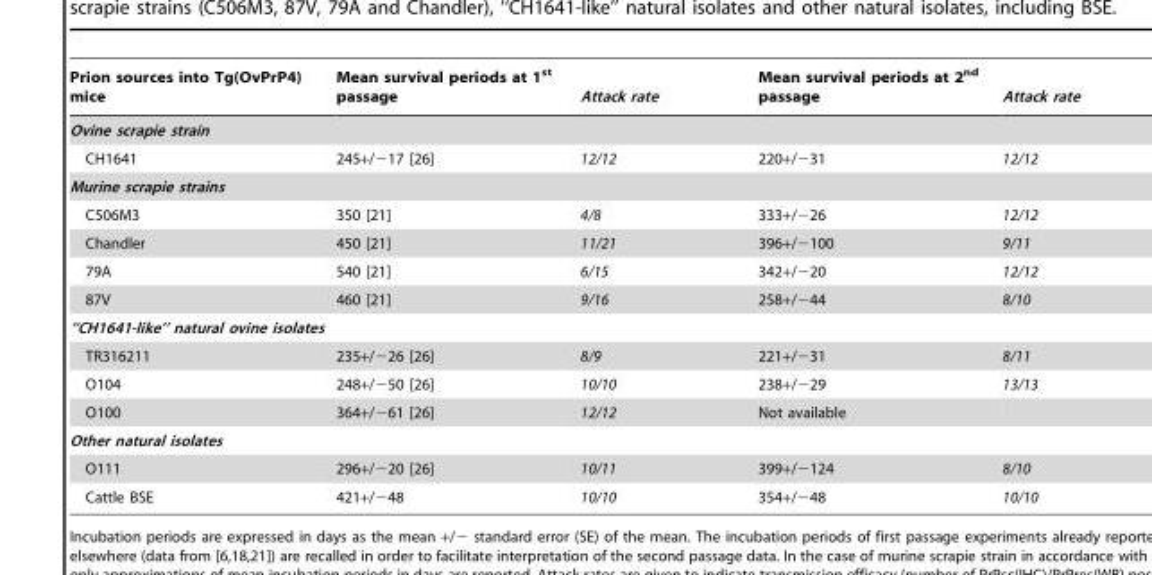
<table><thead><tr><td>Prion sources into Tg(OvPrP4) mice</td><td>Mean survival periods at 1<sup>st</sup> passage</td><td>Attack rate</td><td>Mean survival periods at 2<sup>nd</sup> passage</td><td>Attack rate</td></tr></thead><tbody><tr><td colspan="5">Ovine scrapie strain</td></tr><tr><td>CH1641</td><td>245+/−17 [26]</td><td>12/12</td><td>220+/−31</td><td>12/12</td></tr><tr><td colspan="5">Murine scrapie strains</td></tr><tr><td>C506M3</td><td>350 [21]</td><td>4/8</td><td>333+/−26</td><td>12/12</td></tr><tr><td>Chandler</td><td>450 [21]</td><td>11/21</td><td>396+/−100</td><td>9/11</td></tr><tr><td>79A</td><td>540 [21]</td><td>6/15</td><td>342+/−20</td><td>12/12</td></tr><tr><td>87V</td><td>460 [21]</td><td>9/16</td><td>258+/−44</td><td>8/10</td></tr><tr><td colspan="5">‘‘CH1641-like’’ natural ovine isolates</td></tr><tr><td>TR316211</td><td>235+/−26 [26]</td><td>8/9</td><td>221+/−31</td><td>8/11</td></tr><tr><td>O104</td><td>248+/−50 [26]</td><td>10/10</td><td>238+/−29</td><td>13/13</td></tr><tr><td>O100</td><td>364+/−61 [26]</td><td>12/12</td><td>Not available</td><td></td></tr><tr><td colspan="5">Other natural isolates</td></tr><tr><td>O111</td><td>296+/−20 [26]</td><td>10/11</td><td>399+/−124</td><td>8/10</td></tr><tr><td>Cattle BSE</td><td>421+/−48</td><td>10/10</td><td>354+/−48</td><td>10/10</td></tr></tbody></table>